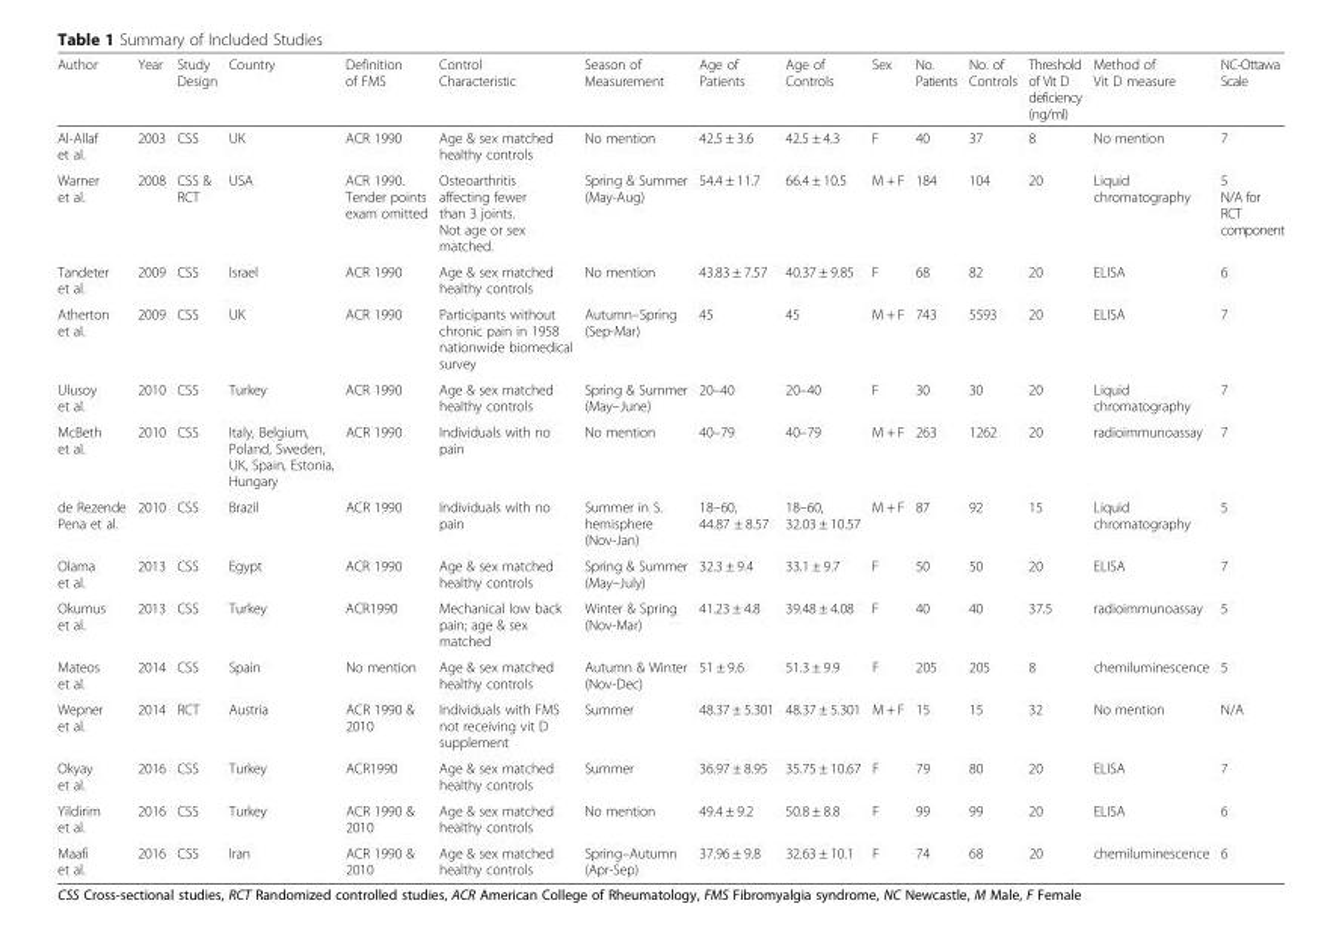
<table><thead><tr><td>Author</td><td>Year</td><td>Study Design</td><td>Country</td><td>Definition of FMS</td><td>Control Characteristic</td><td>Season of Measurement</td><td>Age of Patients</td><td>Age of Controls</td><td>Sex</td><td>No. Patients</td><td>No. of Controls</td><td>Threshold of Vit D deficiency (ng/ml)</td><td>Method of Vit D measure</td><td>NC-Ottawa Scale</td></tr></thead><tbody><tr><td>Al-Allaf et al.</td><td>2003</td><td>CSS</td><td>UK</td><td>ACR 1990</td><td>Age &amp; sex matched healthy controls</td><td>No mention</td><td>42.5 ± 3.6</td><td>42.5 ± 4.3</td><td>F</td><td>40</td><td>37</td><td>8</td><td>No mention</td><td>7</td></tr><tr><td>Warner et al.</td><td>2008</td><td>CSS &amp; RCT</td><td>USA</td><td>ACR 1990. Tender points exam omitted</td><td>Osteoarthritis affecting fewer than 3 joints. Not age or sex matched.</td><td>Spring &amp; Summer (May-Aug)</td><td>54.4 ± 11.7</td><td>66.4 ± 10.5</td><td>M + F</td><td>184</td><td>104</td><td>20</td><td>Liquid chromatography</td><td>5 N/A for RCT component</td></tr><tr><td>Tandeter et al.</td><td>2009</td><td>CSS</td><td>Israel</td><td>ACR 1990</td><td>Age &amp; sex matched healthy controls</td><td>No mention</td><td>43.83 ± 7.57</td><td>40.37 ± 9.85</td><td>F</td><td>68</td><td>82</td><td>20</td><td>ELISA</td><td>6</td></tr><tr><td>Atherton et al.</td><td>2009</td><td>CSS</td><td>UK</td><td>ACR 1990</td><td>Participants without chronic pain in 1958 nationwide biomedical survey</td><td>Autumn–Spring (Sep-Mar)</td><td>45</td><td>45</td><td>M + F</td><td>743</td><td>5593</td><td>20</td><td>ELISA</td><td>7</td></tr><tr><td>Ulusoy et al.</td><td>2010</td><td>CSS</td><td>Turkey</td><td>ACR 1990</td><td>Age &amp; sex matched healthy controls</td><td>Spring &amp; Summer (May–June)</td><td>20–40</td><td>20–40</td><td>F</td><td>30</td><td>30</td><td>20</td><td>Liquid chromatography</td><td>7</td></tr><tr><td>McBeth et al.</td><td>2010</td><td>CSS</td><td>Italy, Belgium, Poland, Sweden, UK, Spain, Estonia, Hungary</td><td>ACR 1990</td><td>Individuals with no pain</td><td>No mention</td><td>40–79</td><td>40–79</td><td>M + F</td><td>263</td><td>1262</td><td>20</td><td>radioimmunoassay</td><td>7</td></tr><tr><td>de Rezende Pena et al.</td><td>2010</td><td>CSS</td><td>Brazil</td><td>ACR 1990</td><td>Individuals with no pain</td><td>Summer in S. hemisphere (Nov-Jan)</td><td>18–60, 44.87 ± 8.57</td><td>18–60, 32.03 ± 10.57</td><td>M + F</td><td>87</td><td>92</td><td>15</td><td>Liquid chromatography</td><td>5</td></tr><tr><td>Olama et al.</td><td>2013</td><td>CSS</td><td>Egypt</td><td>ACR 1990</td><td>Age &amp; sex matched healthy controls</td><td>Spring &amp; Summer (May–July)</td><td>32.3 ± 9.4</td><td>33.1 ± 9.7</td><td>F</td><td>50</td><td>50</td><td>20</td><td>ELISA</td><td>7</td></tr><tr><td>Okumus et al.</td><td>2013</td><td>CSS</td><td>Turkey</td><td>ACR1990</td><td>Mechanical low back pain; age &amp; sex matched</td><td>Winter &amp; Spring (Nov-Mar)</td><td>41.23 ± 4.8</td><td>39.48 ± 4.08</td><td>F</td><td>40</td><td>40</td><td>37.5</td><td>radioimmunoassay</td><td>5</td></tr><tr><td>Mateos et al.</td><td>2014</td><td>CSS</td><td>Spain</td><td>No mention</td><td>Age &amp; sex matched healthy controls</td><td>Autumn &amp; Winter (Nov-Dec)</td><td>51 ± 9.6</td><td>51.3 ± 9.9</td><td>F</td><td>205</td><td>205</td><td>8</td><td>chemiluminescence</td><td>5</td></tr><tr><td>Wepner et al.</td><td>2014</td><td>RCT</td><td>Austria</td><td>ACR 1990 &amp; 2010</td><td>Individuals with FMS not receiving vit D supplement</td><td>Summer</td><td>48.37 ± 5.301</td><td>48.37 ± 5.301</td><td>M + F</td><td>15</td><td>15</td><td>32</td><td>No mention</td><td>N/A</td></tr><tr><td>Okyay et al.</td><td>2016</td><td>CSS</td><td>Turkey</td><td>ACR1990</td><td>Age &amp; sex matched healthy controls</td><td>Summer</td><td>36.97 ± 8.95</td><td>35.75 ± 10.67</td><td>F</td><td>79</td><td>80</td><td>20</td><td>ELISA</td><td>7</td></tr><tr><td>Yildirim et al.</td><td>2016</td><td>CSS</td><td>Turkey</td><td>ACR 1990 &amp; 2010</td><td>Age &amp; sex matched healthy controls</td><td>No mention</td><td>49.4 ± 9.2</td><td>50.8 ± 8.8</td><td>F</td><td>99</td><td>99</td><td>20</td><td>ELISA</td><td>6</td></tr><tr><td>Maafi et al.</td><td>2016</td><td>CSS</td><td>Iran</td><td>ACR 1990 &amp; 2010</td><td>Age &amp; sex matched healthy controls</td><td>Spring–Autumn (Apr-Sep)</td><td>37.96 ± 9.8</td><td>32.63 ± 10.1</td><td>F</td><td>74</td><td>68</td><td>20</td><td>chemiluminescence</td><td>6</td></tr></tbody></table>